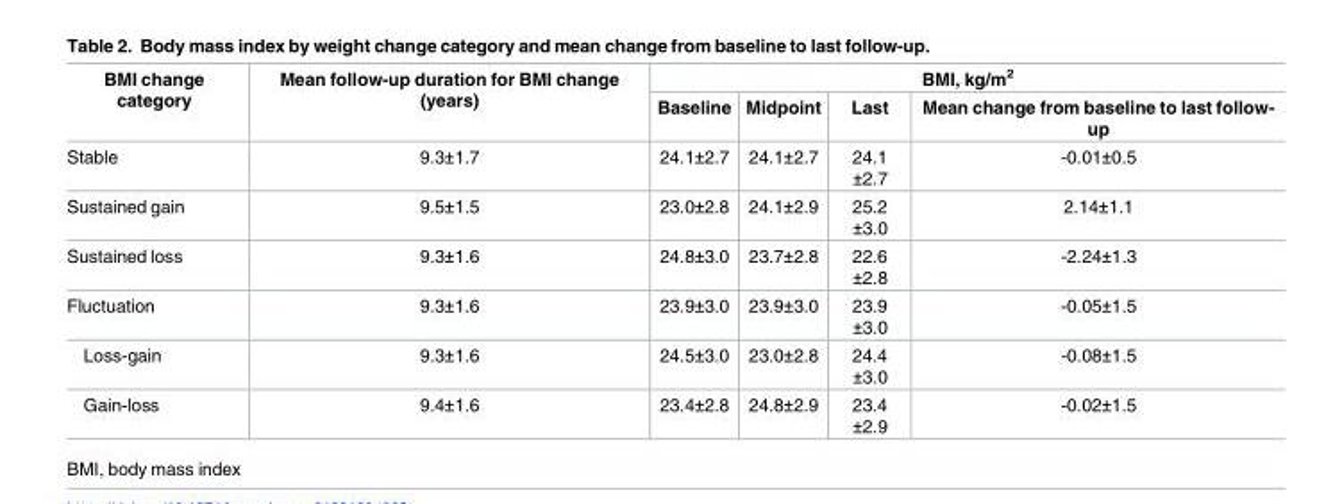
<table><thead><tr><td rowspan="2">BMI change category</td><td rowspan="2">Mean follow-up duration for BMI change (years)</td><td colspan="4">BMI, kg/m<sup>2</sup></td></tr><tr><td>Baseline</td><td>Midpoint</td><td>Last</td><td>Mean change from baseline to last follow- up</td></tr></thead><tbody><tr><td>Stable</td><td>9.3±1.7</td><td>24.1±2.7</td><td>24.1±2.7</td><td>24.1 ±2.7</td><td>-0.01±0.5</td></tr><tr><td>Sustained gain</td><td>9.5±1.5</td><td>23.0±2.8</td><td>24.1±2.9</td><td>25.2 ±3.0</td><td>2.14±1.1</td></tr><tr><td>Sustained loss</td><td>9.3±1.6</td><td>24.8±3.0</td><td>23.7±2.8</td><td>22.6 ±2.8</td><td>-2.24±1.3</td></tr><tr><td>Fluctuation</td><td>9.3±1.6</td><td>23.9±3.0</td><td>23.9±3.0</td><td>23.9 ±3.0</td><td>-0.05±1.5</td></tr><tr><td>Loss-gain</td><td>9.3±1.6</td><td>24.5±3.0</td><td>23.0±2.8</td><td>24.4 ±3.0</td><td>-0.08±1.5</td></tr><tr><td>Gain-loss</td><td>9.4±1.6</td><td>23.4±2.8</td><td>24.8±2.9</td><td>23.4 ±2.9</td><td>-0.02±1.5</td></tr></tbody></table>